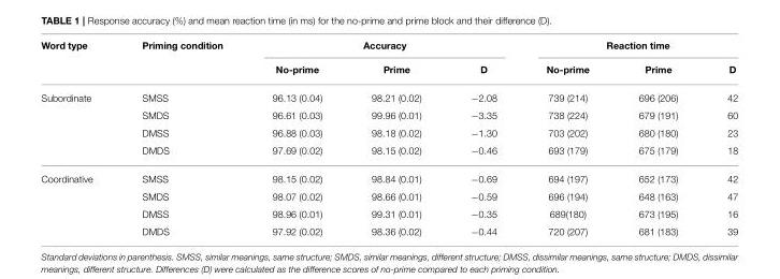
<table><thead><tr><td rowspan="2">Word type</td><td rowspan="2">Priming condition</td><td colspan="3">Accuracy</td><td colspan="3">Reaction time</td></tr><tr><td>No-prime</td><td>Prime</td><td>D</td><td>No-prime</td><td>Prime</td><td>D</td></tr></thead><tbody><tr><td rowspan="4">Subordinate</td><td>SMSS</td><td>96.13 (0.04)</td><td>98.21 (0.02)</td><td>−2.08</td><td>739 (214)</td><td>696 (206)</td><td>42</td></tr><tr><td>SMDS</td><td>96.61 (0.03)</td><td>99.96 (0.01)</td><td>−3.35</td><td>738 (224)</td><td>679 (191)</td><td>60</td></tr><tr><td>DMSS</td><td>96.88 (0.03)</td><td>98.18 (0.02)</td><td>−1.30</td><td>703 (202)</td><td>680 (180)</td><td>23</td></tr><tr><td>DMDS</td><td>97.69 (0.02)</td><td>98.15 (0.02)</td><td>−0.46</td><td>693 (179)</td><td>675 (179)</td><td>18</td></tr><tr><td rowspan="4">Coordinative</td><td>SMSS</td><td>98.15 (0.02)</td><td>98.84 (0.01)</td><td>−0.69</td><td>694 (197)</td><td>652 (173)</td><td>42</td></tr><tr><td>SMDS</td><td>98.07 (0.02)</td><td>98.66 (0.01)</td><td>−0.59</td><td>696 (194)</td><td>648 (163)</td><td>47</td></tr><tr><td>DMSS</td><td>98.96 (0.01)</td><td>99.31 (0.01)</td><td>−0.35</td><td>689(180)</td><td>673 (195)</td><td>16</td></tr><tr><td>DMDS</td><td>97.92 (0.02)</td><td>98.36 (0.02)</td><td>−0.44</td><td>720 (207)</td><td>681 (183)</td><td>39</td></tr></tbody></table>